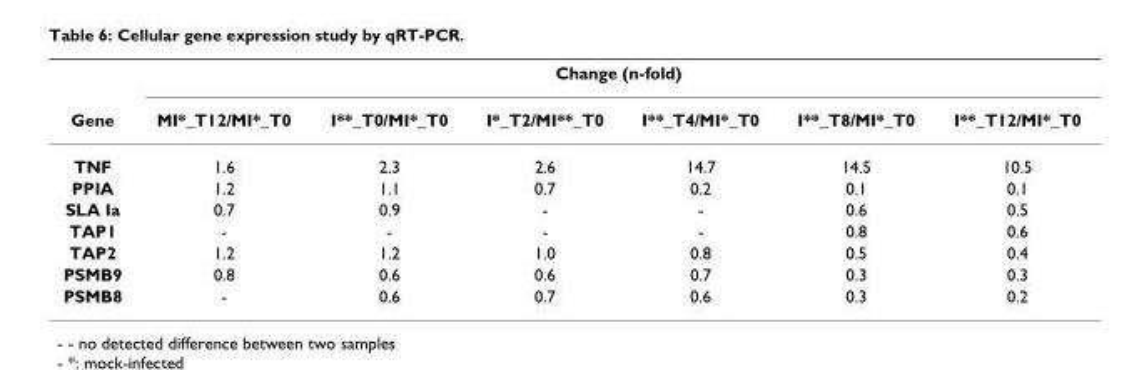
<table><thead><tr><td rowspan="2">Gene</td><td colspan="6">Change (n-fold)</td></tr><tr><td>MI*_T12/MI*_T0</td><td>I**_T0/MI*_T0</td><td>I*_T2/MI**_T0</td><td>I**_T4/MI*_T0</td><td>I**_T8/MI*_T0</td><td>I**_T12/MI*_T0</td></tr></thead><tbody><tr><td>TNF</td><td>1.6</td><td>2.3</td><td>2.6</td><td>14.7</td><td>14.5</td><td>10.5</td></tr><tr><td>PPIA</td><td>1.2</td><td>1.1</td><td>0.7</td><td>0.2</td><td>0.1</td><td>0.1</td></tr><tr><td>SLA Ia</td><td>0.7</td><td>0.9</td><td>-</td><td>-</td><td>0.6</td><td>0.5</td></tr><tr><td>TAP1</td><td>-</td><td>-</td><td>-</td><td>-</td><td>0.8</td><td>0.6</td></tr><tr><td>TAP2</td><td>1.2</td><td>1.2</td><td>1.0</td><td>0.8</td><td>0.5</td><td>0.4</td></tr><tr><td>PSMB9</td><td>0.8</td><td>0.6</td><td>0.6</td><td>0.7</td><td>0.3</td><td>0.3</td></tr><tr><td>PSMB8</td><td>-</td><td>0.6</td><td>0.7</td><td>0.6</td><td>0.3</td><td>0.2</td></tr></tbody></table>